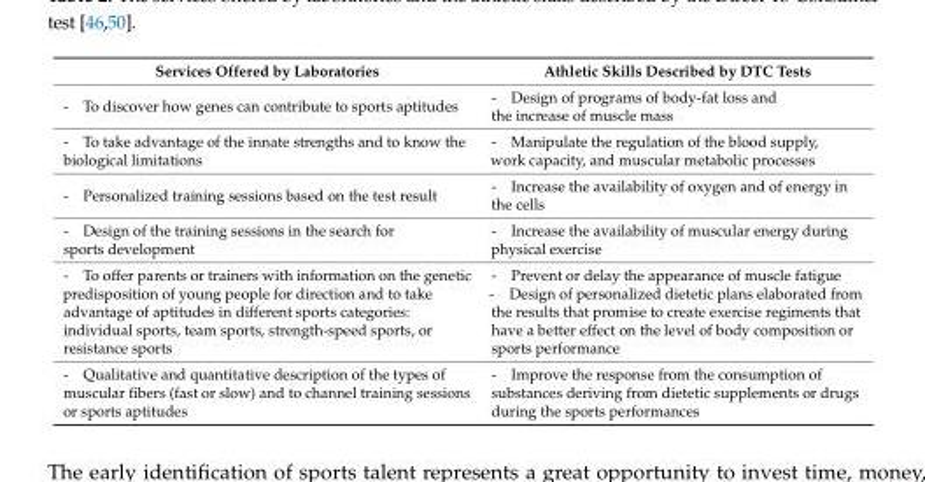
<table><thead><tr><td>Services Offered by Laboratories</td><td>Athletic Skills Described by DTC Tests</td></tr></thead><tbody><tr><td>- To discover how genes can contribute to sports aptitudes</td><td>- Design of programs of body-fat loss and the increase of muscle mass</td></tr><tr><td>- To take advantage of the innate strengths and to know the biological limitations</td><td>- Manipulate the regulation of the blood supply, work capacity, and muscular metabolic processes</td></tr><tr><td>- Personalized training sessions based on the test result</td><td>- Increase the availability of oxygen and of energy in the cells</td></tr><tr><td>- Design of the training sessions in the search for sports development</td><td>- Increase the availability of muscular energy during physical exercise</td></tr><tr><td>- To offer parents or trainers with information on the genetic predisposition of young people for direction and to take advantage of aptitudes in different sports categories: individual sports, team sports, strength-speed sports, or resistance sports</td><td>- Prevent or delay the appearance of muscle fatigue - Design of personalized dietetic plans elaborated from the results that promise to create exercise regiments that have a better effect on the level of body composition or sports performance</td></tr><tr><td>- Qualitative and quantitative description of the types of muscular fibers (fast or slow) and to channel training sessions or sports aptitudes</td><td>- Improve the response from the consumption of substances deriving from dietetic supplements or drugs during the sports performances</td></tr></tbody></table>